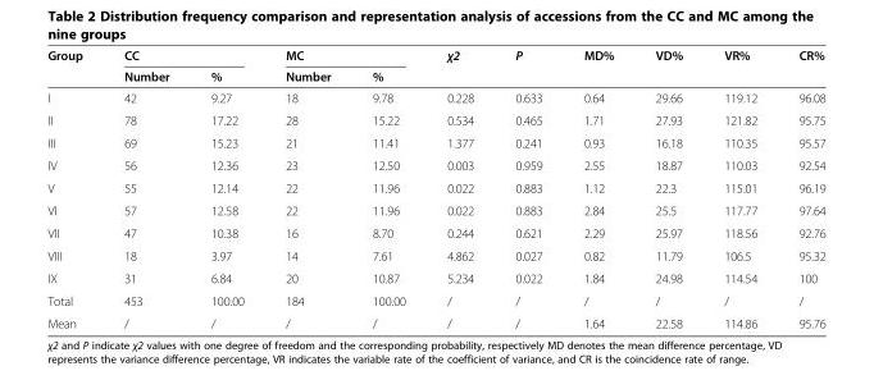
<table><thead><tr><td rowspan="2">Group</td><td colspan="2">CC</td><td colspan="2">MC</td><td rowspan="2">χ2</td><td rowspan="2">P</td><td rowspan="2">MD%</td><td rowspan="2">VD%</td><td rowspan="2">VR%</td><td rowspan="2">CR%</td></tr><tr><td>Number</td><td>%</td><td>Number</td><td>%</td></tr></thead><tbody><tr><td>I</td><td>42</td><td>9.27</td><td>18</td><td>9.78</td><td>0.228</td><td>0.633</td><td>0.64</td><td>29.66</td><td>119.12</td><td>96.08</td></tr><tr><td>II</td><td>78</td><td>17.22</td><td>28</td><td>15.22</td><td>0.534</td><td>0.465</td><td>1.71</td><td>27.93</td><td>121.82</td><td>95.75</td></tr><tr><td>III</td><td>69</td><td>15.23</td><td>21</td><td>11.41</td><td>1.377</td><td>0.241</td><td>0.93</td><td>16.18</td><td>110.35</td><td>95.57</td></tr><tr><td>IV</td><td>56</td><td>12.36</td><td>23</td><td>12.50</td><td>0.003</td><td>0.959</td><td>2.55</td><td>18.87</td><td>110.03</td><td>92.54</td></tr><tr><td>V</td><td>55</td><td>12.14</td><td>22</td><td>11.96</td><td>0.022</td><td>0.883</td><td>1.12</td><td>22.3</td><td>115.01</td><td>96.19</td></tr><tr><td>VI</td><td>57</td><td>12.58</td><td>22</td><td>11.96</td><td>0.022</td><td>0.883</td><td>2.84</td><td>25.5</td><td>117.77</td><td>97.64</td></tr><tr><td>VII</td><td>47</td><td>10.38</td><td>16</td><td>8.70</td><td>0.244</td><td>0.621</td><td>2.29</td><td>25.97</td><td>118.56</td><td>92.76</td></tr><tr><td>VIII</td><td>18</td><td>3.97</td><td>14</td><td>7.61</td><td>4.862</td><td>0.027</td><td>0.82</td><td>11.79</td><td>106.5</td><td>95.32</td></tr><tr><td>IX</td><td>31</td><td>6.84</td><td>20</td><td>10.87</td><td>5.234</td><td>0.022</td><td>1.84</td><td>24.98</td><td>114.54</td><td>100</td></tr><tr><td>Total</td><td>453</td><td>100.00</td><td>184</td><td>100.00</td><td>/</td><td>/</td><td>/</td><td>/</td><td>/</td><td>/</td></tr><tr><td>Mean</td><td>/</td><td>/</td><td>/</td><td>/</td><td>/</td><td>/</td><td>1.64</td><td>22.58</td><td>114.86</td><td>95.76</td></tr></tbody></table>